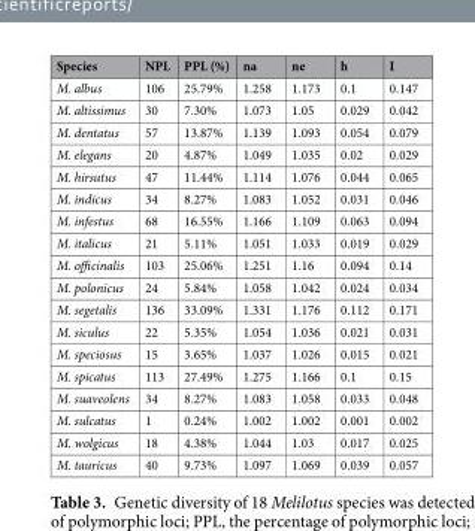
<table><thead><tr><td>Species</td><td>NPL</td><td>PPL (%)</td><td>na</td><td>ne</td><td>h</td><td>I</td></tr></thead><tbody><tr><td>M. albus</td><td>106</td><td>25.79%</td><td>1.258</td><td>1.173</td><td>0.1</td><td>0.147</td></tr><tr><td>M. altissimus</td><td>30</td><td>7.30%</td><td>1.073</td><td>1.05</td><td>0.029</td><td>0.042</td></tr><tr><td>M. dentatus</td><td>57</td><td>13.87%</td><td>1.139</td><td>1.093</td><td>0.054</td><td>0.079</td></tr><tr><td>M. elegans</td><td>20</td><td>4.87%</td><td>1.049</td><td>1.035</td><td>0.02</td><td>0.029</td></tr><tr><td>M. hirsutus</td><td>47</td><td>11.44%</td><td>1.114</td><td>1.076</td><td>0.044</td><td>0.065</td></tr><tr><td>M. indicus</td><td>34</td><td>8.27%</td><td>1.083</td><td>1.052</td><td>0.031</td><td>0.046</td></tr><tr><td>M. infestus</td><td>68</td><td>16.55%</td><td>1.166</td><td>1.109</td><td>0.063</td><td>0.094</td></tr><tr><td>M. italicus</td><td>21</td><td>5.11%</td><td>1.051</td><td>1.033</td><td>0.019</td><td>0.029</td></tr><tr><td>M. officinalis</td><td>103</td><td>25.06%</td><td>1.251</td><td>1.16</td><td>0.094</td><td>0.14</td></tr><tr><td>M. polonicus</td><td>24</td><td>5.84%</td><td>1.058</td><td>1.042</td><td>0.024</td><td>0.034</td></tr><tr><td>M. segetalis</td><td>136</td><td>33.09%</td><td>1.331</td><td>1.176</td><td>0.112</td><td>0.171</td></tr><tr><td>M. siculus</td><td>22</td><td>5.35%</td><td>1.054</td><td>1.036</td><td>0.021</td><td>0.031</td></tr><tr><td>M. speciosus</td><td>15</td><td>3.65%</td><td>1.037</td><td>1.026</td><td>0.015</td><td>0.021</td></tr><tr><td>M. spicatus</td><td>113</td><td>27.49%</td><td>1.275</td><td>1.166</td><td>0.1</td><td>0.15</td></tr><tr><td>M. suaveolens</td><td>34</td><td>8.27%</td><td>1.083</td><td>1.058</td><td>0.033</td><td>0.048</td></tr><tr><td>M. sulcatus</td><td>1</td><td>0.24%</td><td>1.002</td><td>1.002</td><td>0.001</td><td>0.002</td></tr><tr><td>M. wolgicus</td><td>18</td><td>4.38%</td><td>1.044</td><td>1.03</td><td>0.017</td><td>0.025</td></tr><tr><td>M. tauricus</td><td>40</td><td>9.73%</td><td>1.097</td><td>1.069</td><td>0.039</td><td>0.057</td></tr></tbody></table>